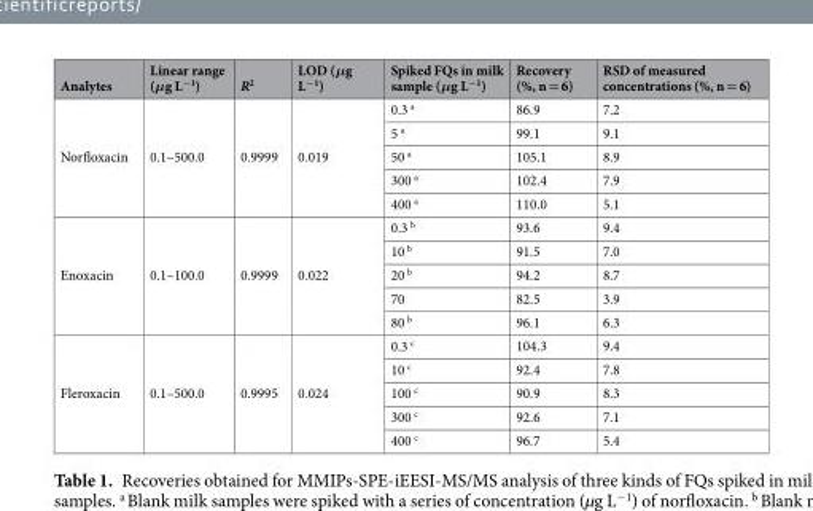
<table><thead><tr><td>Analytes</td><td>Linear range (μg L<sup>−1</sup>)</td><td>R<sup>2</sup></td><td>LOD (μg L<sup>−1</sup>)</td><td>Spiked FQs in milk sample (μg L<sup>−1</sup>)</td><td>Recovery (%, n = 6)</td><td>RSD of measured concentrations (%, n = 6)</td></tr></thead><tbody><tr><td rowspan="5">Norfloxacin</td><td rowspan="5">0.1–500.0</td><td rowspan="5">0.9999</td><td rowspan="5">0.019</td><td>0.3 <sup>a</sup></td><td>86.9</td><td>7.2</td></tr><tr><td>5 <sup>a</sup></td><td>99.1</td><td>9.1</td></tr><tr><td>50 <sup>a</sup></td><td>105.1</td><td>8.9</td></tr><tr><td>300 <sup>a</sup></td><td>102.4</td><td>7.9</td></tr><tr><td>400 <sup>a</sup></td><td>110.0</td><td>5.1</td></tr><tr><td rowspan="5">Enoxacin</td><td rowspan="5">0.1–100.0</td><td rowspan="5">0.9999</td><td rowspan="5">0.022</td><td>0.3 <sup>b</sup></td><td>93.6</td><td>9.4</td></tr><tr><td>10 <sup>b</sup></td><td>91.5</td><td>7.0</td></tr><tr><td>20 <sup>b</sup></td><td>94.2</td><td>8.7</td></tr><tr><td>70</td><td>82.5</td><td>3.9</td></tr><tr><td>80 <sup>b</sup></td><td>96.1</td><td>6.3</td></tr><tr><td rowspan="5">Fleroxacin</td><td rowspan="5">0.1–500.0</td><td rowspan="5">0.9995</td><td rowspan="5">0.024</td><td>0.3 <sup>c</sup></td><td>104.3</td><td>9.4</td></tr><tr><td>10 <sup>c</sup></td><td>92.4</td><td>7.8</td></tr><tr><td>100 <sup>c</sup></td><td>90.9</td><td>8.3</td></tr><tr><td>300 <sup>c</sup></td><td>92.6</td><td>7.1</td></tr><tr><td>400 <sup>c</sup></td><td>96.7</td><td>5.4</td></tr></tbody></table>